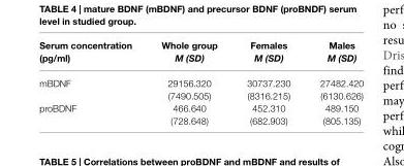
<table><thead><tr><td>Serum concentration (pg/ml)</td><td>Whole group M (SD)</td><td>Females M (SD)</td><td>Males M (SD)</td></tr></thead><tbody><tr><td rowspan="2">mBDNF</td><td>29156.320</td><td>30737.230</td><td>27482.420</td></tr><tr><td>(7490.505)</td><td>(8316.215)</td><td>(6130.626)</td></tr><tr><td rowspan="2">proBDNF</td><td>466.640</td><td>452.310</td><td>489.150</td></tr><tr><td>(728.648)</td><td>(682.903)</td><td>(805.135)</td></tr></tbody></table>